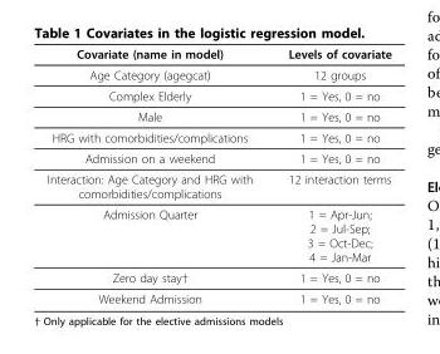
<table><thead><tr><td>Covariate (name in model)</td><td>Levels of covariate</td></tr></thead><tbody><tr><td>Age Category (agegcat)</td><td>12 groups</td></tr><tr><td>Complex Elderly</td><td>1 = Yes, 0 = no</td></tr><tr><td>Male</td><td>1 = Yes, 0 = no</td></tr><tr><td>HRG with comorbidities/complications</td><td>1 = Yes, 0 = no</td></tr><tr><td>Admission on a weekend</td><td>1 = Yes, 0 = no</td></tr><tr><td>Interaction: Age Category and HRG with comorbidities/complications</td><td>12 interaction terms</td></tr><tr><td>Admission Quarter</td><td>1 = Apr-Jun; 2 = Jul-Sep; 3 = Oct-Dec; 4 = Jan-Mar</td></tr><tr><td>Zero day stay†</td><td>1 = Yes, 0 = no</td></tr><tr><td>Weekend Admission</td><td>1 = Yes, 0 = no</td></tr></tbody></table>